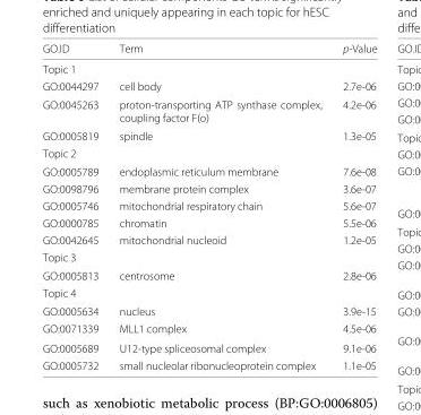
<table><thead><tr><td>GO.ID</td><td>Term</td><td>p-Value</td></tr></thead><tbody><tr><td colspan="3">Topic 1</td></tr><tr><td>GO:0044297</td><td>cell body</td><td>2.7e-06</td></tr><tr><td>GO:0045263</td><td>proton-transporting ATP synthase complex, coupling factor F(o)</td><td>4.2e-06</td></tr><tr><td>GO:0005819</td><td>spindle</td><td>1.3e-05</td></tr><tr><td colspan="3">Topic 2</td></tr><tr><td>GO:0005789</td><td>endoplasmic reticulum membrane</td><td>7.6e-08</td></tr><tr><td>GO:0098796</td><td>membrane protein complex</td><td>3.6e-07</td></tr><tr><td>GO:0005746</td><td>mitochondrial respiratory chain</td><td>5.6e-07</td></tr><tr><td>GO:0000785</td><td>chromatin</td><td>5.5e-06</td></tr><tr><td>GO:0042645</td><td>mitochondrial nucleoid</td><td>1.2e-05</td></tr><tr><td colspan="3">Topic 3</td></tr><tr><td>GO:0005813</td><td>centrosome</td><td>2.8e-06</td></tr><tr><td colspan="3">Topic 4</td></tr><tr><td>GO:0005634</td><td>nucleus</td><td>3.9e-15</td></tr><tr><td>GO:0071339</td><td>MLL1 complex</td><td>4.5e-06</td></tr><tr><td>GO:0005689</td><td>U12-type spliceosomal complex</td><td>9.1e-06</td></tr><tr><td>GO:0005732</td><td>small nucleolar ribonucleoprotein complex</td><td>1.1e-05</td></tr></tbody></table>